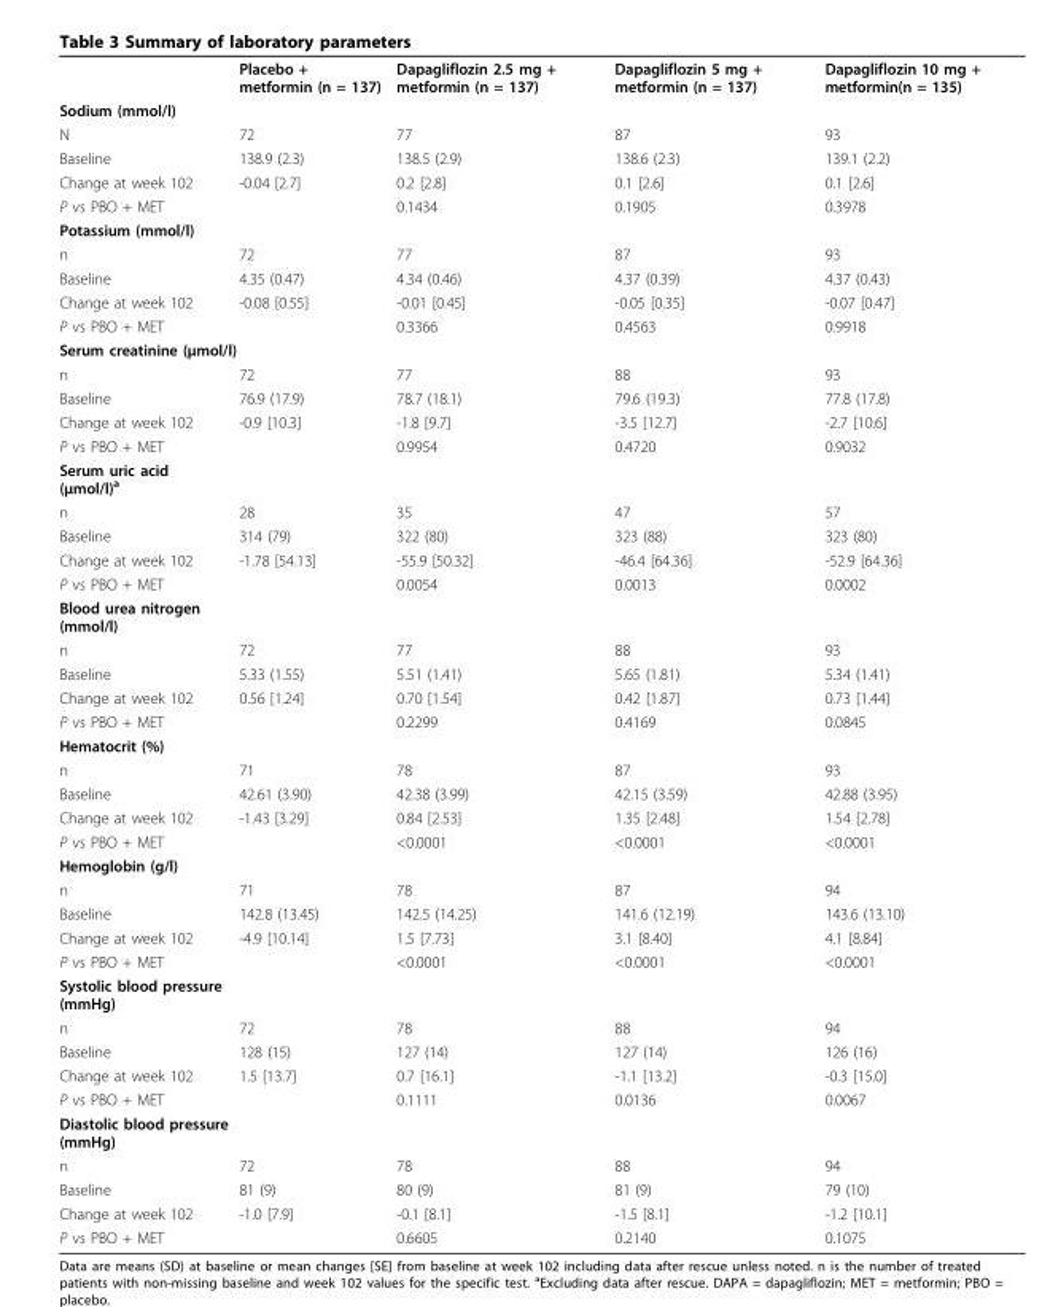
<table><thead><tr><td></td><td>Placebo + metformin (n = 137)</td><td>Dapagliflozin 2.5 mg + metformin (n = 137)</td><td>Dapagliflozin 5 mg + metformin (n = 137)</td><td>Dapagliflozin 10 mg + metformin(n = 135)</td></tr></thead><tbody><tr><td colspan="5">Sodium (mmol/l)</td></tr><tr><td>N</td><td>72</td><td>77</td><td>87</td><td>93</td></tr><tr><td>Baseline</td><td>138.9 (2.3)</td><td>138.5 (2.9)</td><td>138.6 (2.3)</td><td>139.1 (2.2)</td></tr><tr><td>Change at week 102</td><td>-0.04 [2.7]</td><td>0.2 [2.8]</td><td>0.1 [2.6]</td><td>0.1 [2.6]</td></tr><tr><td>P vs PBO + MET</td><td></td><td>0.1434</td><td>0.1905</td><td>0.3978</td></tr><tr><td colspan="5">Potassium (mmol/l)</td></tr><tr><td>n</td><td>72</td><td>77</td><td>87</td><td>93</td></tr><tr><td>Baseline</td><td>4.35 (0.47)</td><td>4.34 (0.46)</td><td>4.37 (0.39)</td><td>4.37 (0.43)</td></tr><tr><td>Change at week 102</td><td>-0.08 [0.55]</td><td>-0.01 [0.45]</td><td>-0.05 [0.35]</td><td>-0.07 [0.47]</td></tr><tr><td>P vs PBO + MET</td><td></td><td>0.3366</td><td>0.4563</td><td>0.9918</td></tr><tr><td colspan="5">Serum creatinine (μmol/l)</td></tr><tr><td>n</td><td>72</td><td>77</td><td>88</td><td>93</td></tr><tr><td>Baseline</td><td>76.9 (17.9)</td><td>78.7 (18.1)</td><td>79.6 (19.3)</td><td>77.8 (17.8)</td></tr><tr><td>Change at week 102</td><td>-0.9 [10.3]</td><td>-1.8 [9.7]</td><td>-3.5 [12.7]</td><td>-2.7 [10.6]</td></tr><tr><td>P vs PBO + MET</td><td></td><td>0.9954</td><td>0.4720</td><td>0.9032</td></tr><tr><td colspan="5">Serum uric acid (μmol/l)<sup>a</sup></td></tr><tr><td>n</td><td>28</td><td>35</td><td>47</td><td>57</td></tr><tr><td>Baseline</td><td>314 (79)</td><td>322 (80)</td><td>323 (88)</td><td>323 (80)</td></tr><tr><td>Change at week 102</td><td>-1.78 [54.13]</td><td>-55.9 [50.32]</td><td>-46.4 [64.36]</td><td>-52.9 [64.36]</td></tr><tr><td>P vs PBO + MET</td><td></td><td>0.0054</td><td>0.0013</td><td>0.0002</td></tr><tr><td colspan="5">Blood urea nitrogen (mmol/l)</td></tr><tr><td>n</td><td>72</td><td>77</td><td>88</td><td>93</td></tr><tr><td>Baseline</td><td>5.33 (1.55)</td><td>5.51 (1.41)</td><td>5.65 (1.81)</td><td>5.34 (1.41)</td></tr><tr><td>Change at week 102</td><td>0.56 [1.24]</td><td>0.70 [1.54]</td><td>0.42 [1.87]</td><td>0.73 [1.44]</td></tr><tr><td>P vs PBO + MET</td><td></td><td>0.2299</td><td>0.4169</td><td>0.0845</td></tr><tr><td colspan="5">Hematocrit (%)</td></tr><tr><td>n</td><td>71</td><td>78</td><td>87</td><td>93</td></tr><tr><td>Baseline</td><td>42.61 (3.90)</td><td>42.38 (3.99)</td><td>42.15 (3.59)</td><td>42.88 (3.95)</td></tr><tr><td>Change at week 102</td><td>-1.43 [3.29]</td><td>0.84 [2.53]</td><td>1.35 [2.48]</td><td>1.54 [2.78]</td></tr><tr><td>P vs PBO + MET</td><td></td><td>&lt;0.0001</td><td>&lt;0.0001</td><td>&lt;0.0001</td></tr><tr><td colspan="5">Hemoglobin (g/l)</td></tr><tr><td>n</td><td>71</td><td>78</td><td>87</td><td>94</td></tr><tr><td>Baseline</td><td>142.8 (13.45)</td><td>142.5 (14.25)</td><td>141.6 (12.19)</td><td>143.6 (13.10)</td></tr><tr><td>Change at week 102</td><td>-4.9 [10.14]</td><td>1.5 [7.73]</td><td>3.1 [8.40]</td><td>4.1 [8.84]</td></tr><tr><td>P vs PBO + MET</td><td></td><td>&lt;0.0001</td><td>&lt;0.0001</td><td>&lt;0.0001</td></tr><tr><td colspan="5">Systolic blood pressure (mmHg)</td></tr><tr><td>n</td><td>72</td><td>78</td><td>88</td><td>94</td></tr><tr><td>Baseline</td><td>128 (15)</td><td>127 (14)</td><td>127 (14)</td><td>126 (16)</td></tr><tr><td>Change at week 102</td><td>1.5 [13.7]</td><td>0.7 [16.1]</td><td>-1.1 [13.2]</td><td>-0.3 [15.0]</td></tr><tr><td>P vs PBO + MET</td><td></td><td>0.1111</td><td>0.0136</td><td>0.0067</td></tr><tr><td colspan="5">Diastolic blood pressure (mmHg)</td></tr><tr><td>n</td><td>72</td><td>78</td><td>88</td><td>94</td></tr><tr><td>Baseline</td><td>81 (9)</td><td>80 (9)</td><td>81 (9)</td><td>79 (10)</td></tr><tr><td>Change at week 102</td><td>-1.0 [7.9]</td><td>-0.1 [8.1]</td><td>-1.5 [8.1]</td><td>-1.2 [10.1]</td></tr><tr><td>P vs PBO + MET</td><td></td><td>0.6605</td><td>0.2140</td><td>0.1075</td></tr></tbody></table>